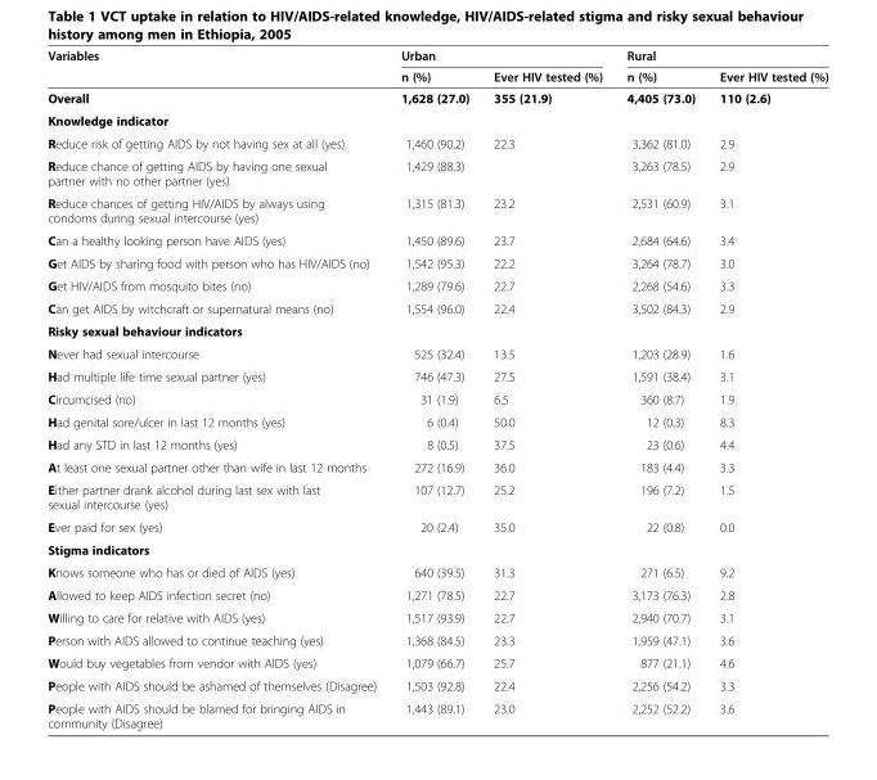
<table><thead><tr><td rowspan="2">Variables</td><td colspan="2">Urban</td><td colspan="2">Rural</td></tr><tr><td>n (%)</td><td>Ever HIV tested (%)</td><td>n (%)</td><td>Ever HIV tested (%)</td></tr></thead><tbody><tr><td>Overall</td><td>1,628 (27.0)</td><td>355 (21.9)</td><td>4,405 (73.0)</td><td>110 (2.6)</td></tr><tr><td colspan="5">Knowledge indicator</td></tr><tr><td>Reduce risk of getting AIDS by not having sex at all (yes)</td><td>1,460 (90.2)</td><td>22.3</td><td>3,362 (81.0)</td><td>2.9</td></tr><tr><td>Reduce chance of getting AIDS by having one sexual partner with no other partner (yes)</td><td>1,429 (88.3)</td><td></td><td>3,263 (78.5)</td><td>2.9</td></tr><tr><td>Reduce chances of getting HIV/AIDS by always using condoms during sexual intercourse (yes)</td><td>1,315 (81.3)</td><td>23.2</td><td>2,531 (60.9)</td><td>3.1</td></tr><tr><td>Can a healthy looking person have AIDS (yes)</td><td>1,450 (89.6)</td><td>23.7</td><td>2,684 (64.6)</td><td>3.4</td></tr><tr><td>Get AIDS by sharing food with person who has HIV/AIDS (no)</td><td>1,542 (95.3)</td><td>22.2</td><td>3,264 (78.7)</td><td>3.0</td></tr><tr><td>Get HIV/AIDS from mosquito bites (no)</td><td>1,289 (79.6)</td><td>22.7</td><td>2,268 (54.6)</td><td>3.3</td></tr><tr><td>Can get AIDS by witchcraft or supernatural means (no)</td><td>1,554 (96.0)</td><td>22.4</td><td>3,502 (84.3)</td><td>2.9</td></tr><tr><td colspan="5">Risky sexual behaviour indicators</td></tr><tr><td>Never had sexual intercourse</td><td>525 (32.4)</td><td>13.5</td><td>1,203 (28.9)</td><td>1.6</td></tr><tr><td>Had multiple life time sexual partner (yes)</td><td>746 (47.3)</td><td>27.5</td><td>1,591 (38.4)</td><td>3.1</td></tr><tr><td>Circumcised (no)</td><td>31 (1.9)</td><td>6.5</td><td>360 (8.7)</td><td>1.9</td></tr><tr><td>Had genital sore/ulcer in last 12 months (yes)</td><td>6 (0.4)</td><td>50.0</td><td>12 (0.3)</td><td>8.3</td></tr><tr><td>Had any STD in last 12 months (yes)</td><td>8 (0.5)</td><td>37.5</td><td>23 (0.6)</td><td>4.4</td></tr><tr><td>At least one sexual partner other than wife in last 12 months</td><td>272 (16.9)</td><td>36.0</td><td>183 (4.4)</td><td>3.3</td></tr><tr><td>Either partner drank alcohol during last sex with last sexual intercourse (yes)</td><td>107 (12.7)</td><td>25.2</td><td>196 (7.2)</td><td>1.5</td></tr><tr><td>Ever paid for sex (yes)</td><td>20 (2.4)</td><td>35.0</td><td>22 (0.8)</td><td>0.0</td></tr><tr><td colspan="5">Stigma indicators</td></tr><tr><td>Knows someone who has or died of AIDS (yes)</td><td>640 (39.5)</td><td>31.3</td><td>271 (6.5)</td><td>9.2</td></tr><tr><td>Allowed to keep AIDS infection secret (no)</td><td>1,271 (78.5)</td><td>22.7</td><td>3,173 (76.3)</td><td>2.8</td></tr><tr><td>Willing to care for relative with AIDS (yes)</td><td>1,517 (93.9)</td><td>22.7</td><td>2,940 (70.7)</td><td>3.1</td></tr><tr><td>Person with AIDS allowed to continue teaching (yes)</td><td>1,368 (84.5)</td><td>23.3</td><td>1,959 (47.1)</td><td>3.6</td></tr><tr><td>Would buy vegetables from vendor with AIDS (yes)</td><td>1,079 (66.7)</td><td>25.7</td><td>877 (21.1)</td><td>4.6</td></tr><tr><td>People with AIDS should be ashamed of themselves (Disagree)</td><td>1,503 (92.8)</td><td>22.4</td><td>2,256 (54.2)</td><td>3.3</td></tr><tr><td>People with AIDS should be blamed for bringing AIDS in community (Disagree)</td><td>1,443 (89.1)</td><td>23.0</td><td>2,252 (52.2)</td><td>3.6</td></tr></tbody></table>